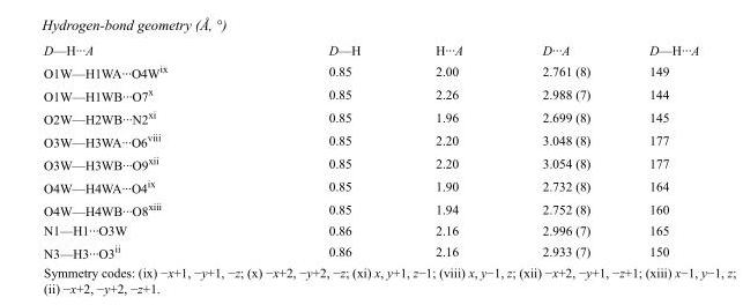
<table><tbody><tr><td>D—H···A</td><td>D—H</td><td>H···A</td><td>D···A</td><td>D—H···A</td></tr><tr><td>O1W—H1WA···O4W<sup>ix</sup></td><td>0.85</td><td>2.00</td><td>2.761 (8)</td><td>149</td></tr><tr><td>O1W—H1WB···O7<sup>x</sup></td><td>0.85</td><td>2.26</td><td>2.988 (7)</td><td>144</td></tr><tr><td>O2W—H2WB···N2<sup>xi</sup></td><td>0.85</td><td>1.96</td><td>2.699 (8)</td><td>145</td></tr><tr><td>O3W—H3WA···O6<sup>viii</sup></td><td>0.85</td><td>2.20</td><td>3.048 (8)</td><td>177</td></tr><tr><td>O3W—H3WB···O9<sup>xii</sup></td><td>0.85</td><td>2.20</td><td>3.054 (8)</td><td>177</td></tr><tr><td>O4W—H4WA···O4<sup>ix</sup></td><td>0.85</td><td>1.90</td><td>2.732 (8)</td><td>164</td></tr><tr><td>O4W—H4WB···O8<sup>xiii</sup></td><td>0.85</td><td>1.94</td><td>2.752 (8)</td><td>160</td></tr><tr><td>N1—H1···O3W</td><td>0.86</td><td>2.16</td><td>2.996 (7)</td><td>165</td></tr><tr><td>N3—H3···O3<sup>ii</sup></td><td>0.86</td><td>2.16</td><td>2.933 (7)</td><td>150</td></tr></tbody></table>